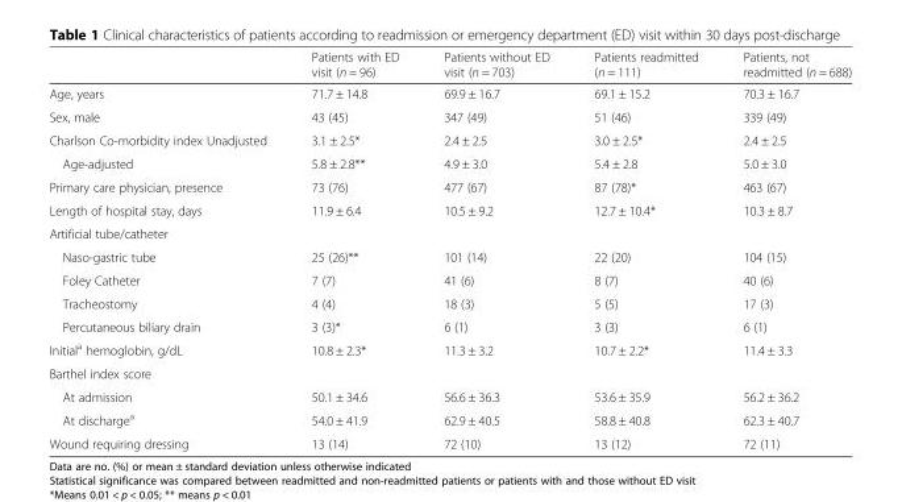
<table><thead><tr><td></td><td>Patients with ED visit (n = 96)</td><td>Patients without ED visit (n = 703)</td><td>Patients readmitted (n = 111)</td><td>Patients, not readmitted (n = 688)</td></tr></thead><tbody><tr><td>Age, years</td><td>71.7 ± 14.8</td><td>69.9 ± 16.7</td><td>69.1 ± 15.2</td><td>70.3 ± 16.7</td></tr><tr><td>Sex, male</td><td>43 (45)</td><td>347 (49)</td><td>51 (46)</td><td>339 (49)</td></tr><tr><td>Charlson Co-morbidity index Unadjusted</td><td>3.1 ± 2.5*</td><td>2.4 ± 2.5</td><td>3.0 ± 2.5*</td><td>2.4 ± 2.5</td></tr><tr><td>Age-adjusted</td><td>5.8 ± 2.8**</td><td>4.9 ± 3.0</td><td>5.4 ± 2.8</td><td>5.0 ± 3.0</td></tr><tr><td>Primary care physician, presence</td><td>73 (76)</td><td>477 (67)</td><td>87 (78)*</td><td>463 (67)</td></tr><tr><td>Length of hospital stay, days</td><td>11.9 ± 6.4</td><td>10.5 ± 9.2</td><td>12.7 ± 10.4*</td><td>10.3 ± 8.7</td></tr><tr><td colspan="5">Artificial tube/catheter</td></tr><tr><td>Naso-gastric tube</td><td>25 (26)**</td><td>101 (14)</td><td>22 (20)</td><td>104 (15)</td></tr><tr><td>Foley Catheter</td><td>7 (7)</td><td>41 (6)</td><td>8 (7)</td><td>40 (6)</td></tr><tr><td>Tracheostomy</td><td>4 (4)</td><td>18 (3)</td><td>5 (5)</td><td>17 (3)</td></tr><tr><td>Percutaneous biliary drain</td><td>3 (3)*</td><td>6 (1)</td><td>3 (3)</td><td>6 (1)</td></tr><tr><td>Initial<sup>a</sup> hemoglobin, g/dL</td><td>10.8 ± 2.3*</td><td>11.3 ± 3.2</td><td>10.7 ± 2.2*</td><td>11.4 ± 3.3</td></tr><tr><td colspan="5">Barthel index score</td></tr><tr><td>At admission</td><td>50.1 ± 34.6</td><td>56.6 ± 36.3</td><td>53.6 ± 35.9</td><td>56.2 ± 36.2</td></tr><tr><td>At discharge<sup>a</sup></td><td>54.0 ± 41.9</td><td>62.9 ± 40.5</td><td>58.8 ± 40.8</td><td>62.3 ± 40.7</td></tr><tr><td>Wound requiring dressing</td><td>13 (14)</td><td>72 (10)</td><td>13 (12)</td><td>72 (11)</td></tr></tbody></table>